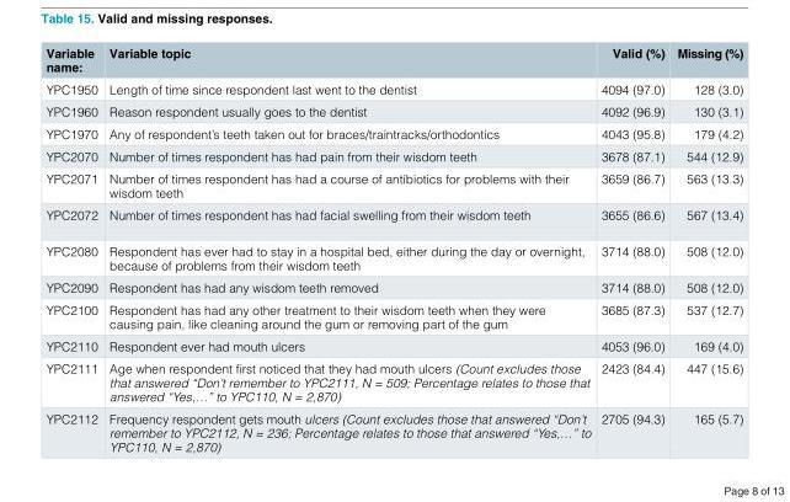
<table><thead><tr><td>Variable name:</td><td>Variable topic</td><td>Valid (%)</td><td>Missing (%)</td></tr></thead><tbody><tr><td>YPC1950</td><td>Length of time since respondent last went to the dentist</td><td>4094 (97.0)</td><td>128 (3.0)</td></tr><tr><td>YPC1960</td><td>Reason respondent usually goes to the dentist</td><td>4092 (96.9)</td><td>130 (3.1)</td></tr><tr><td>YPC1970</td><td>Any of respondent’s teeth taken out for braces/traintracks/orthodontics</td><td>4043 (95.8)</td><td>179 (4.2)</td></tr><tr><td>YPC2070</td><td>Number of times respondent has had pain from their wisdom teeth</td><td>3678 (87.1)</td><td>544 (12.9)</td></tr><tr><td>YPC2071</td><td>Number of times respondent has had a course of antibiotics for problems with their wisdom teeth</td><td>3659 (86.7)</td><td>563 (13.3)</td></tr><tr><td>YPC2072</td><td>Number of times respondent has had facial swelling from their wisdom teeth</td><td>3655 (86.6)</td><td>567 (13.4)</td></tr><tr><td>YPC2080</td><td>Respondent has ever had to stay in a hospital bed, either during the day or overnight, because of problems from their wisdom teeth</td><td>3714 (88.0)</td><td>508 (12.0)</td></tr><tr><td>YPC2090</td><td>Respondent has had any wisdom teeth removed</td><td>3714 (88.0)</td><td>508 (12.0)</td></tr><tr><td>YPC2100</td><td>Respondent has had any other treatment to their wisdom teeth when they were causing pain, like cleaning around the gum or removing part of the gum</td><td>3685 (87.3)</td><td>537 (12.7)</td></tr><tr><td>YPC2110</td><td>Respondent ever had mouth ulcers</td><td>4053 (96.0)</td><td>169 (4.0)</td></tr><tr><td>YPC2111</td><td>Age when respondent first noticed that they had mouth ulcers (Count excludes those that answered “Don’t remember to YPC2111, N = 509; Percentage relates to those that answered “Yes,…” to YPC110, N = 2,870)</td><td>2423 (84.4)</td><td>447 (15.6)</td></tr><tr><td>YPC2112</td><td>Frequency respondent gets mouth ulcers (Count excludes those that answered “Don’t remember to YPC2112, N = 236; Percentage relates to those that answered “Yes,…” to YPC110, N = 2,870)</td><td>2705 (94.3)</td><td>165 (5.7)</td></tr></tbody></table>